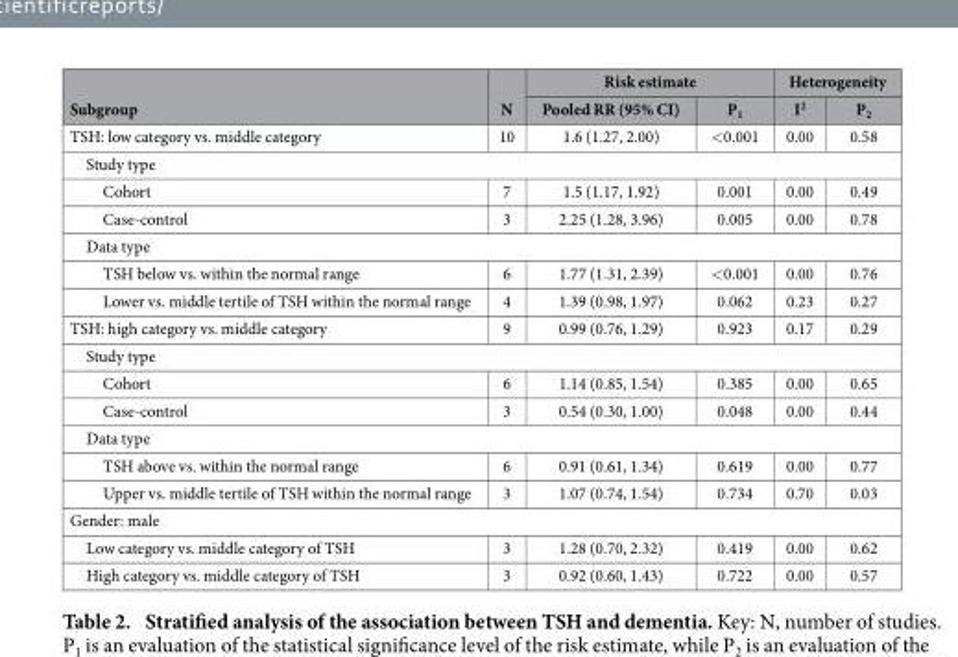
<table><thead><tr><td rowspan="2">Subgroup</td><td rowspan="2">N</td><td colspan="2">Risk estimate</td><td colspan="2">Heterogeneity</td></tr><tr><td>Pooled RR (95% CI)</td><td>P<sub>1</sub></td><td>I<sup>2</sup></td><td>P<sub>2</sub></td></tr></thead><tbody><tr><td>TSH: low category vs. middle category</td><td>10</td><td>1.6 (1.27, 2.00)</td><td>&lt; 0.001</td><td>0.00</td><td>0.58</td></tr><tr><td colspan="6">Study type</td></tr><tr><td>Cohort</td><td>7</td><td>1.5 (1.17, 1.92)</td><td>0.001</td><td>0.00</td><td>0.49</td></tr><tr><td>Case-control</td><td>3</td><td>2.25 (1.28, 3.96)</td><td>0.005</td><td>0.00</td><td>0.78</td></tr><tr><td colspan="6">Data type</td></tr><tr><td>TSH below vs. within the normal range</td><td>6</td><td>1.77 (1.31, 2.39)</td><td>&lt; 0.001</td><td>0.00</td><td>0.76</td></tr><tr><td>Lower vs. middle tertile of TSH within the normal range</td><td>4</td><td>1.39 (0.98, 1.97)</td><td>0.062</td><td>0.23</td><td>0.27</td></tr><tr><td>TSH: high category vs. middle category</td><td>9</td><td>0.99 (0.76, 1.29)</td><td>0.923</td><td>0.17</td><td>0.29</td></tr><tr><td colspan="6">Study type</td></tr><tr><td>Cohort</td><td>6</td><td>1.14 (0.85, 1.54)</td><td>0.385</td><td>0.00</td><td>0.65</td></tr><tr><td>Case-control</td><td>3</td><td>0.54 (0.30, 1.00)</td><td>0.048</td><td>0.00</td><td>0.44</td></tr><tr><td colspan="6">Data type</td></tr><tr><td>TSH above vs. within the normal range</td><td>6</td><td>0.91 (0.61, 1.34)</td><td>0.619</td><td>0.00</td><td>0.77</td></tr><tr><td>Upper vs. middle tertile of TSH within the normal range</td><td>3</td><td>1.07 (0.74, 1.54)</td><td>0.734</td><td>0.70</td><td>0.03</td></tr><tr><td colspan="6">Gender: male</td></tr><tr><td>Low category vs. middle category of TSH</td><td>3</td><td>1.28 (0.70, 2.32)</td><td>0.419</td><td>0.00</td><td>0.62</td></tr><tr><td>High category vs. middle category of TSH</td><td>3</td><td>0.92 (0.60, 1.43)</td><td>0.722</td><td>0.00</td><td>0.57</td></tr></tbody></table>